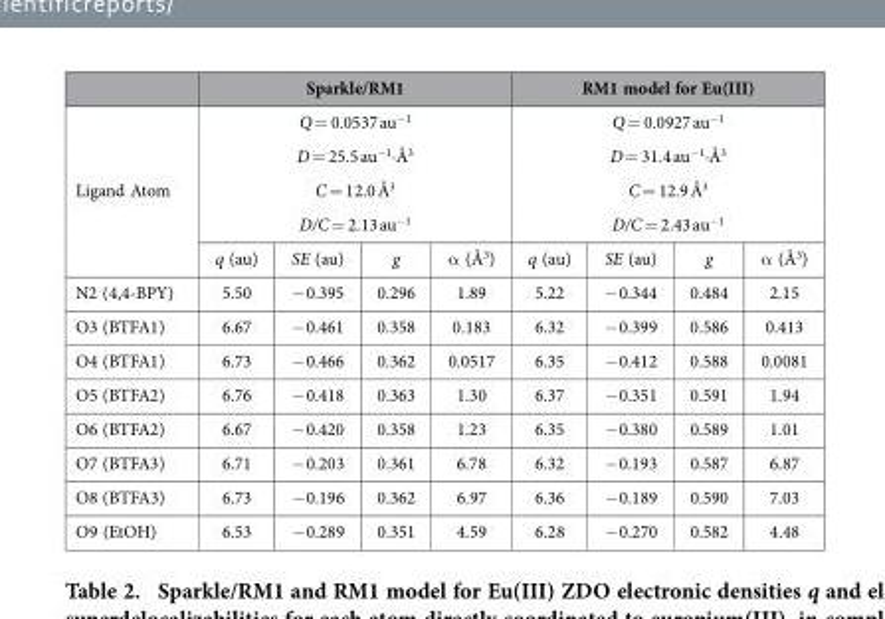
<table><thead><tr><td></td><td colspan="4">Sparkle/RM1</td><td colspan="4">RM1 model for Eu(III)</td></tr></thead><tbody><tr><td rowspan="5">Ligand Atom</td><td colspan="4">Q = 0.0537 au<sup>−1</sup></td><td colspan="4">Q = 0.0927 au<sup>−1</sup></td></tr><tr><td colspan="4">D = 25.5 au<sup>−1</sup>·Å<sup>3</sup></td><td colspan="4">D = 31.4 au<sup>−1</sup>·Å<sup>3</sup></td></tr><tr><td colspan="4">C = 12.0 Å<sup>3</sup></td><td colspan="4">C = 12.9 Å<sup>3</sup></td></tr><tr><td colspan="4">D/C = 2.13 au<sup>−1</sup></td><td colspan="4">D/C = 2.43 au<sup>−1</sup></td></tr><tr><td>q (au)</td><td>SE (au)</td><td>g</td><td>α (Å<sup>3</sup>)</td><td>q (au)</td><td>SE (au)</td><td>g</td><td>α (Å<sup>3</sup>)</td></tr><tr><td>N2 (4,4-BPY)</td><td>5.50</td><td>− 0.395</td><td>0.296</td><td>1.89</td><td>5.22</td><td>− 0.344</td><td>0.484</td><td>2.15</td></tr><tr><td>O3 (BTFA1)</td><td>6.67</td><td>− 0.461</td><td>0.358</td><td>0.183</td><td>6.32</td><td>− 0.399</td><td>0.586</td><td>0.413</td></tr><tr><td>O4 (BTFA1)</td><td>6.73</td><td>− 0.466</td><td>0.362</td><td>0.0517</td><td>6.35</td><td>− 0.412</td><td>0.588</td><td>0.0081</td></tr><tr><td>O5 (BTFA2)</td><td>6.76</td><td>− 0.418</td><td>0.363</td><td>1.30</td><td>6.37</td><td>− 0.351</td><td>0.591</td><td>1.94</td></tr><tr><td>O6 (BTFA2)</td><td>6.67</td><td>− 0.420</td><td>0.358</td><td>1.23</td><td>6.35</td><td>− 0.380</td><td>0.589</td><td>1.01</td></tr><tr><td>O7 (BTFA3)</td><td>6.71</td><td>− 0.203</td><td>0.361</td><td>6.78</td><td>6.32</td><td>− 0.193</td><td>0.587</td><td>6.87</td></tr><tr><td>O8 (BTFA3)</td><td>6.73</td><td>− 0.196</td><td>0.362</td><td>6.97</td><td>6.36</td><td>− 0.189</td><td>0.590</td><td>7.03</td></tr><tr><td>O9 (EtOH)</td><td>6.53</td><td>− 0.289</td><td>0.351</td><td>4.59</td><td>6.28</td><td>− 0.270</td><td>0.582</td><td>4.48</td></tr></tbody></table>